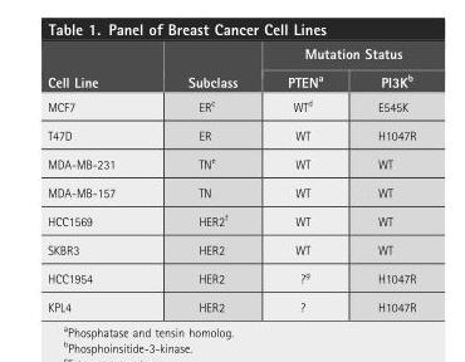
<table><thead><tr><td rowspan="2">Cell Line</td><td rowspan="2">Subclass</td><td colspan="2">Mutation Status</td></tr><tr><td>PTEN<sup>a</sup></td><td>PI3K<sup>b</sup></td></tr></thead><tbody><tr><td>MCF7</td><td>ER<sup>c</sup></td><td>WT<sup>d</sup></td><td>E545K</td></tr><tr><td>T47D</td><td>ER</td><td>WT</td><td>H1047R</td></tr><tr><td>MDA-MB-231</td><td>TN<sup>e</sup></td><td>WT</td><td>WT</td></tr><tr><td>MDA-MB-157</td><td>TN</td><td>WT</td><td>WT</td></tr><tr><td>HCC1569</td><td>HER2<sup>f</sup></td><td>WT</td><td>WT</td></tr><tr><td>SKBR3</td><td>HER2</td><td>WT</td><td>WT</td></tr><tr><td>HCC1954</td><td>HER2</td><td>?<sup>g</sup></td><td>H1047R</td></tr><tr><td>KPL4</td><td>HER2</td><td>?</td><td>H1047R</td></tr></tbody></table>